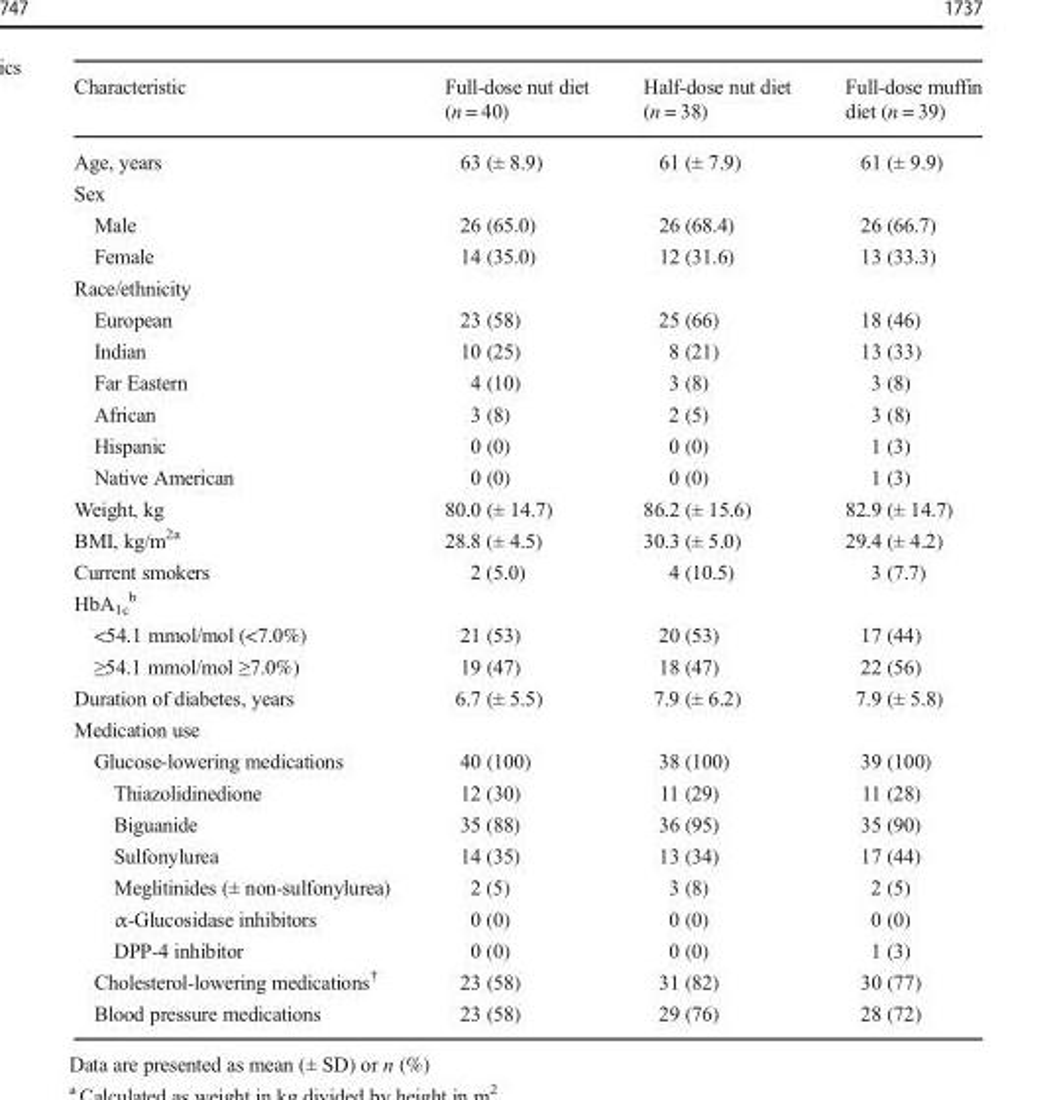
<table><thead><tr><td>Characteristic</td><td>Full-dose nut diet (n = 40)</td><td>Half-dose nut diet (n = 38)</td><td>Full-dose muffin diet (n = 39)</td></tr></thead><tbody><tr><td>Age, years</td><td>63 (± 8.9)</td><td>61 (± 7.9)</td><td>61 (± 9.9)</td></tr><tr><td colspan="4">Sex</td></tr><tr><td>Male</td><td>26 (65.0)</td><td>26 (68.4)</td><td>26 (66.7)</td></tr><tr><td>Female</td><td>14 (35.0)</td><td>12 (31.6)</td><td>13 (33.3)</td></tr><tr><td colspan="4">Race/ethnicity</td></tr><tr><td>European</td><td>23 (58)</td><td>25 (66)</td><td>18 (46)</td></tr><tr><td>Indian</td><td>10 (25)</td><td>8 (21)</td><td>13 (33)</td></tr><tr><td>Far Eastern</td><td>4 (10)</td><td>3 (8)</td><td>3 (8)</td></tr><tr><td>African</td><td>3 (8)</td><td>2 (5)</td><td>3 (8)</td></tr><tr><td>Hispanic</td><td>0 (0)</td><td>0 (0)</td><td>1 (3)</td></tr><tr><td>Native American</td><td>0 (0)</td><td>0 (0)</td><td>1 (3)</td></tr><tr><td>Weight, kg</td><td>80.0 (± 14.7)</td><td>86.2 (± 15.6)</td><td>82.9 (± 14.7)</td></tr><tr><td>BMI, kg/m<sup>2a</sup></td><td>28.8 (± 4.5)</td><td>30.3 (± 5.0)</td><td>29.4 (± 4.2)</td></tr><tr><td>Current smokers</td><td>2 (5.0)</td><td>4 (10.5)</td><td>3 (7.7)</td></tr><tr><td colspan="4">HbA<sub>1c</sub> <sup>b</sup></td></tr><tr><td>&lt;54.1 mmol/mol (&lt;7.0%)</td><td>21 (53)</td><td>20 (53)</td><td>17 (44)</td></tr><tr><td>≥54.1 mmol/mol ≥7.0%)</td><td>19 (47)</td><td>18 (47)</td><td>22 (56)</td></tr><tr><td>Duration of diabetes, years</td><td>6.7 (± 5.5)</td><td>7.9 (± 6.2)</td><td>7.9 (± 5.8)</td></tr><tr><td colspan="4">Medication use</td></tr><tr><td>Glucose-lowering medications</td><td>40 (100)</td><td>38 (100)</td><td>39 (100)</td></tr><tr><td>Thiazolidinedione</td><td>12 (30)</td><td>11 (29)</td><td>11 (28)</td></tr><tr><td>Biguanide</td><td>35 (88)</td><td>36 (95)</td><td>35 (90)</td></tr><tr><td>Sulfonylurea</td><td>14 (35)</td><td>13 (34)</td><td>17 (44)</td></tr><tr><td>Meglitinides (± non-sulfonylurea)</td><td>2 (5)</td><td>3 (8)</td><td>2 (5)</td></tr><tr><td>α-Glucosidase inhibitors</td><td>0 (0)</td><td>0 (0)</td><td>0 (0)</td></tr><tr><td>DPP-4 inhibitor</td><td>0 (0)</td><td>0 (0)</td><td>1 (3)</td></tr><tr><td>Cholesterol-lowering medications<sup>†</sup></td><td>23 (58)</td><td>31 (82)</td><td>30 (77)</td></tr><tr><td>Blood pressure medications</td><td>23 (58)</td><td>29 (76)</td><td>28 (72)</td></tr></tbody></table>